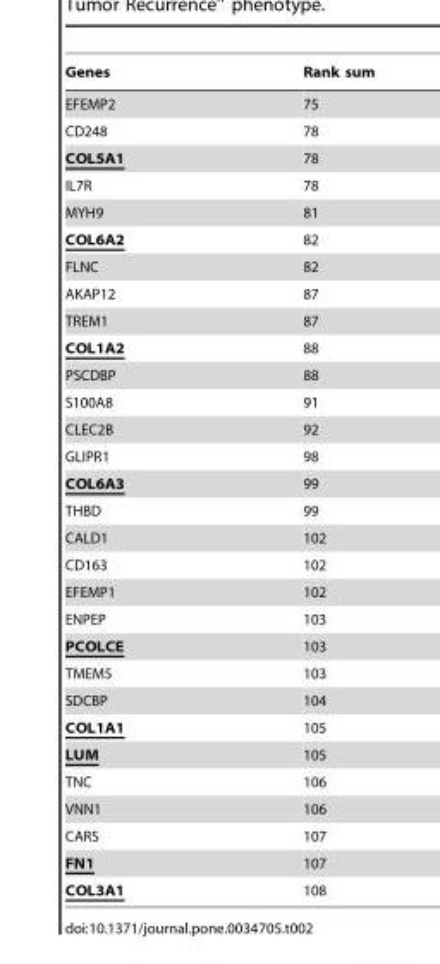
<table><thead><tr><td>Genes</td><td>Rank sum</td></tr></thead><tbody><tr><td>EFEMP2</td><td>75</td></tr><tr><td>CD248</td><td>78</td></tr><tr><td>COL5A1</td><td>78</td></tr><tr><td>IL7R</td><td>78</td></tr><tr><td>MYH9</td><td>81</td></tr><tr><td>COL6A2</td><td>82</td></tr><tr><td>FLNC</td><td>82</td></tr><tr><td>AKAP12</td><td>87</td></tr><tr><td>TREM1</td><td>87</td></tr><tr><td>COL1A2</td><td>88</td></tr><tr><td>PSCDBP</td><td>88</td></tr><tr><td>S100A8</td><td>91</td></tr><tr><td>CLEC2B</td><td>92</td></tr><tr><td>GLIPR1</td><td>98</td></tr><tr><td>COL6A3</td><td>99</td></tr><tr><td>THBD</td><td>99</td></tr><tr><td>CALD1</td><td>102</td></tr><tr><td>CD163</td><td>102</td></tr><tr><td>EFEMP1</td><td>102</td></tr><tr><td>ENPEP</td><td>103</td></tr><tr><td>PCOLCE</td><td>103</td></tr><tr><td>TMEM5</td><td>103</td></tr><tr><td>SDCBP</td><td>104</td></tr><tr><td>COL1A1</td><td>105</td></tr><tr><td>LUM</td><td>105</td></tr><tr><td>TNC</td><td>106</td></tr><tr><td>VNN1</td><td>106</td></tr><tr><td>CARS</td><td>107</td></tr><tr><td>FN1</td><td>107</td></tr><tr><td>COL3A1</td><td>108</td></tr></tbody></table>